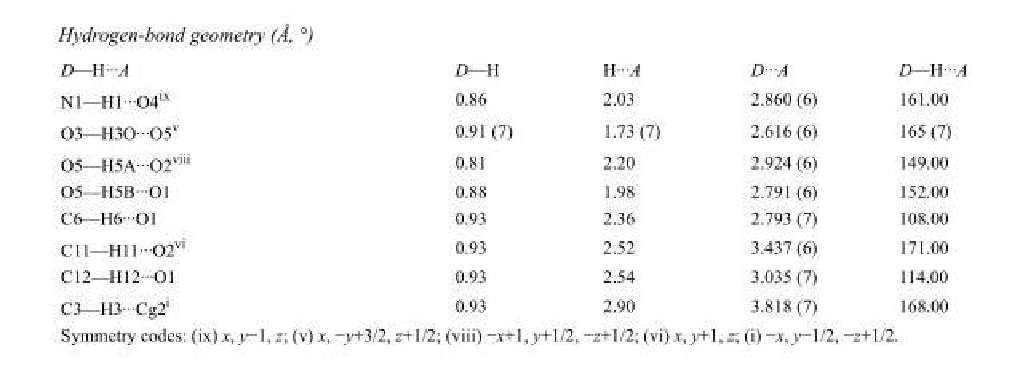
<table><tbody><tr><td>D—H···A</td><td>D—H</td><td>H···A</td><td>D···A</td><td>D—H···A</td></tr><tr><td>N1—H1···O4<sup>ix</sup></td><td>0.86</td><td>2.03</td><td>2.860 (6)</td><td>161.00</td></tr><tr><td>O3—H3O···O5<sup>v</sup></td><td>0.91 (7)</td><td>1.73 (7)</td><td>2.616 (6)</td><td>165 (7)</td></tr><tr><td>O5—H5A···O2<sup>viii</sup></td><td>0.81</td><td>2.20</td><td>2.924 (6)</td><td>149.00</td></tr><tr><td>O5—H5B···O1</td><td>0.88</td><td>1.98</td><td>2.791 (6)</td><td>152.00</td></tr><tr><td>C6—H6···O1</td><td>0.93</td><td>2.36</td><td>2.793 (7)</td><td>108.00</td></tr><tr><td>C11—H11···O2<sup>vi</sup></td><td>0.93</td><td>2.52</td><td>3.437 (6)</td><td>171.00</td></tr><tr><td>C12—H12···O1</td><td>0.93</td><td>2.54</td><td>3.035 (7)</td><td>114.00</td></tr><tr><td>C3—H3···Cg2<sup>i</sup></td><td>0.93</td><td>2.90</td><td>3.818 (7)</td><td>168.00</td></tr></tbody></table>